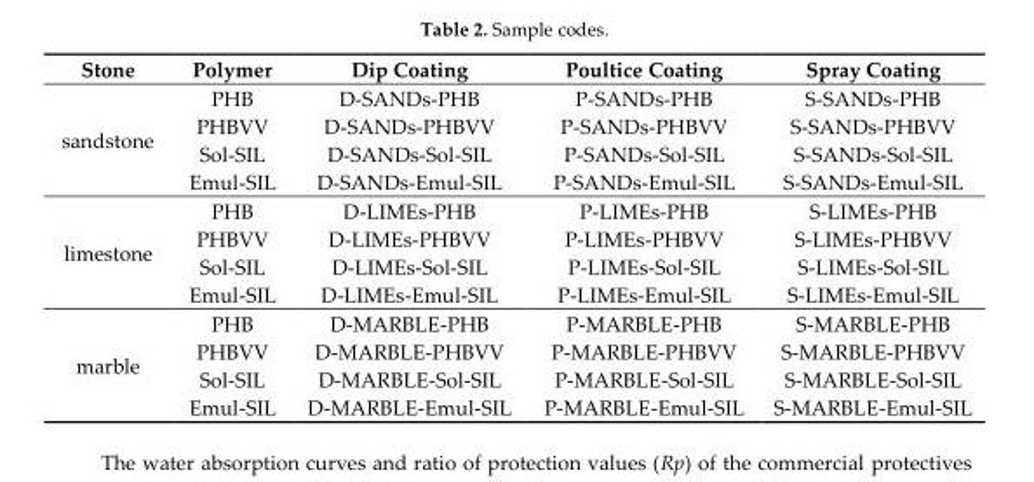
<table><thead><tr><td>Stone</td><td>Polymer</td><td>Dip Coating</td><td>Poultice Coating</td><td>Spray Coating</td></tr></thead><tbody><tr><td rowspan="4">sandstone</td><td>PHB</td><td>D-SANDs-PHB</td><td>P-SANDs-PHB</td><td>S-SANDs-PHB</td></tr><tr><td>PHBVV</td><td>D-SANDs-PHBVV</td><td>P-SANDs-PHBVV</td><td>S-SANDs-PHBVV</td></tr><tr><td>Sol-SIL</td><td>D-SANDs-Sol-SIL</td><td>P-SANDs-Sol-SIL</td><td>S-SANDs-Sol-SIL</td></tr><tr><td>Emul-SIL</td><td>D-SANDs-Emul-SIL</td><td>P-SANDs-Emul-SIL</td><td>S-SANDs-Emul-SIL</td></tr><tr><td rowspan="4">limestone</td><td>PHB</td><td>D-LIMEs-PHB</td><td>P-LIMEs-PHB</td><td>S-LIMEs-PHB</td></tr><tr><td>PHBVV</td><td>D-LIMEs-PHBVV</td><td>P-LIMEs-PHBVV</td><td>S-LIMEs-PHBVV</td></tr><tr><td>Sol-SIL</td><td>D-LIMEs-Sol-SIL</td><td>P-LIMEs-Sol-SIL</td><td>S-LIMEs-Sol-SIL</td></tr><tr><td>Emul-SIL</td><td>D-LIMEs-Emul-SIL</td><td>P-LIMEs-Emul-SIL</td><td>S-LIMEs-Emul-SIL</td></tr><tr><td rowspan="4">marble</td><td>PHB</td><td>D-MARBLE-PHB</td><td>P-MARBLE-PHB</td><td>S-MARBLE-PHB</td></tr><tr><td>PHBVV</td><td>D-MARBLE-PHBVV</td><td>P-MARBLE-PHBVV</td><td>S-MARBLE-PHBVV</td></tr><tr><td>Sol-SIL</td><td>D-MARBLE-Sol-SIL</td><td>P-MARBLE-Sol-SIL</td><td>S-MARBLE-Sol-SIL</td></tr><tr><td>Emul-SIL</td><td>D-MARBLE-Emul-SIL</td><td>P-MARBLE-Emul-SIL</td><td>S-MARBLE-Emul-SIL</td></tr></tbody></table>